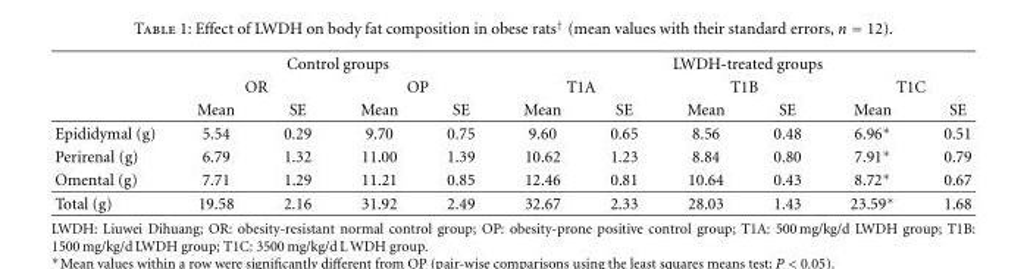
<table><thead><tr><td rowspan="3"></td><td colspan="4">Control groups</td><td colspan="6">LWDH-treated groups</td></tr><tr><td colspan="2">OR</td><td colspan="2">OP</td><td colspan="2">T1A</td><td colspan="2">T1B</td><td colspan="2">T1C</td></tr><tr><td>Mean</td><td>SE</td><td>Mean</td><td>SE</td><td>Mean</td><td>SE</td><td>Mean</td><td>SE</td><td>Mean</td><td>SE</td></tr></thead><tbody><tr><td>Epididymal (g)</td><td>5.54</td><td>0.29</td><td>9.70</td><td>0.75</td><td>9.60</td><td>0.65</td><td>8.56</td><td>0.48</td><td>6.96∗</td><td>0.51</td></tr><tr><td>Perirenal (g)</td><td>6.79</td><td>1.32</td><td>11.00</td><td>1.39</td><td>10.62</td><td>1.23</td><td>8.84</td><td>0.80</td><td>7.91∗</td><td>0.79</td></tr><tr><td>Omental (g)</td><td>7.71</td><td>1.29</td><td>11.21</td><td>0.85</td><td>12.46</td><td>0.81</td><td>10.64</td><td>0.43</td><td>8.72∗</td><td>0.67</td></tr><tr><td>Total (g)</td><td>19.58</td><td>2.16</td><td>31.92</td><td>2.49</td><td>32.67</td><td>2.33</td><td>28.03</td><td>1.43</td><td>23.59∗</td><td>1.68</td></tr></tbody></table>